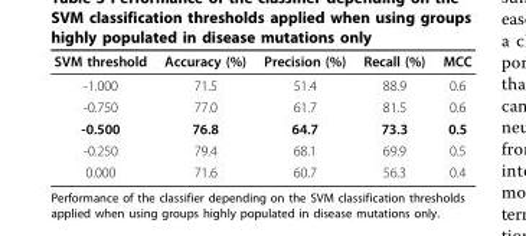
<table><thead><tr><td>SVM threshold</td><td>Accuracy (%)</td><td>Precision (%)</td><td>Recall (%)</td><td>MCC</td></tr></thead><tbody><tr><td>-1.000</td><td>71.5</td><td>51.4</td><td>88.9</td><td>0.6</td></tr><tr><td>-0.750</td><td>77.0</td><td>61.7</td><td>81.5</td><td>0.6</td></tr><tr><td>-0.500</td><td>76.8</td><td>64.7</td><td>73.3</td><td>0.5</td></tr><tr><td>-0.250</td><td>79.4</td><td>68.1</td><td>69.9</td><td>0.5</td></tr><tr><td>0.000</td><td>71.6</td><td>60.7</td><td>56.3</td><td>0.4</td></tr></tbody></table>